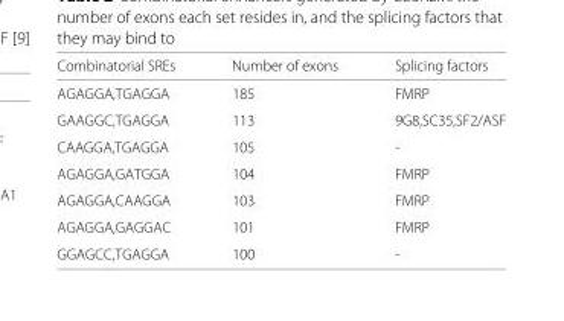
<table><thead><tr><td>Combinatorial SREs</td><td>Number of exons</td><td>Splicing factors</td></tr></thead><tbody><tr><td>AGAGGA,TGAGGA</td><td>185</td><td>FMRP</td></tr><tr><td>GAAGGC,TGAGGA</td><td>113</td><td>9G8,SC35,SF2/ASF</td></tr><tr><td>CAAGGA,TGAGGA</td><td>105</td><td>-</td></tr><tr><td>AGAGGA,GATGGA</td><td>104</td><td>FMRP</td></tr><tr><td>AGAGGA,CAAGGA</td><td>103</td><td>FMRP</td></tr><tr><td>AGAGGA,GAGGAC</td><td>101</td><td>FMRP</td></tr><tr><td>GGAGCC,TGAGGA</td><td>100</td><td>-</td></tr></tbody></table>